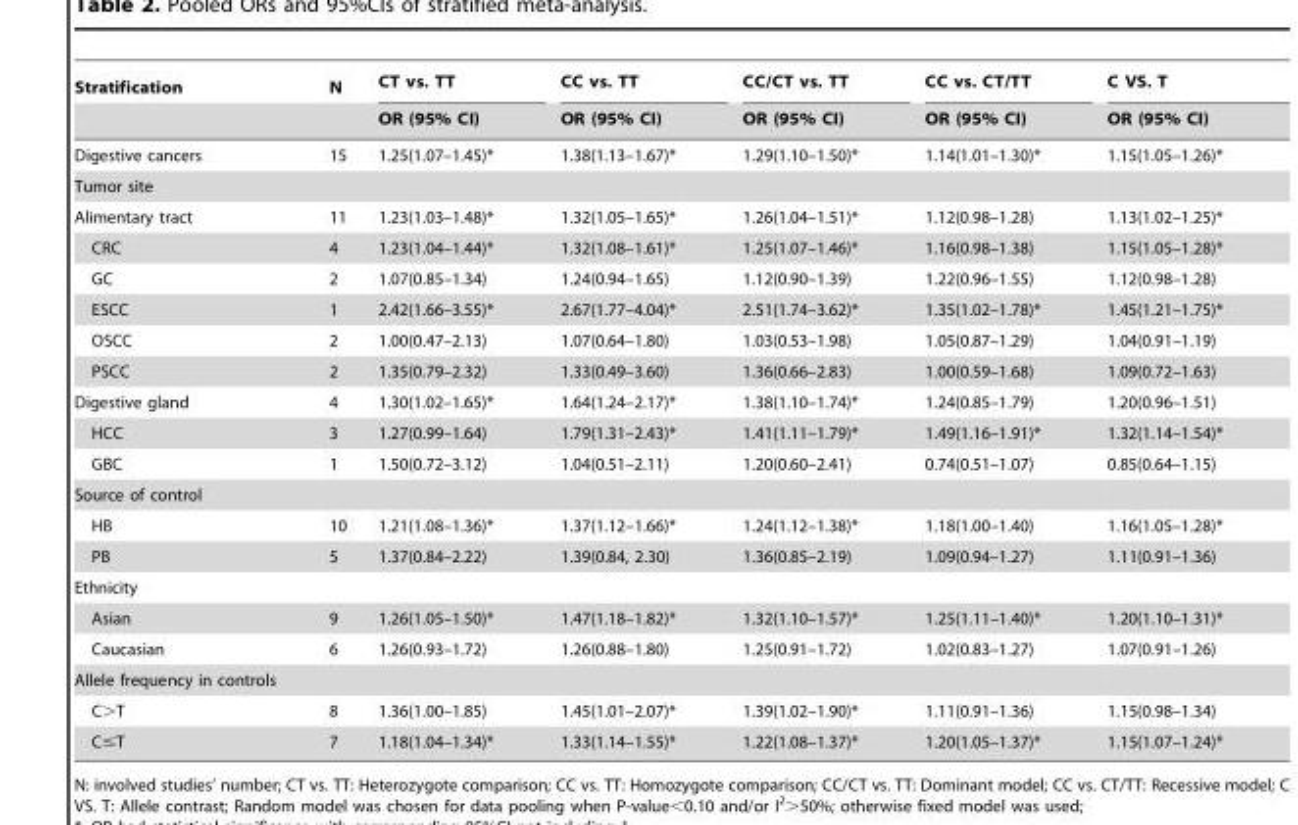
<table><thead><tr><td rowspan="2">Stratification</td><td rowspan="2">N</td><td rowspan="2">CT vs. TT OR (95% CI)</td><td rowspan="2">CC vs. TT OR (95% CI)</td><td rowspan="2">CC/CT vs. TT OR (95% CI)</td><td rowspan="2">CC vs. CT/TT OR (95% CI)</td><td rowspan="2">C VS. T OR (95% CI)</td></tr><tr></tr></thead><tbody><tr><td>Digestive cancers</td><td>15</td><td>1.25(1.07–1.45)*</td><td>1.38(1.13–1.67)*</td><td>1.29(1.10–1.50)*</td><td>1.14(1.01–1.30)*</td><td>1.15(1.05–1.26)*</td></tr><tr><td colspan="7">Tumor site</td></tr><tr><td>Alimentary tract</td><td>11</td><td>1.23(1.03–1.48)*</td><td>1.32(1.05–1.65)*</td><td>1.26(1.04–1.51)*</td><td>1.12(0.98–1.28)</td><td>1.13(1.02–1.25)*</td></tr><tr><td>CRC</td><td>4</td><td>1.23(1.04–1.44)*</td><td>1.32(1.08–1.61)*</td><td>1.25(1.07–1.46)*</td><td>1.16(0.98–1.38)</td><td>1.15(1.05–1.28)*</td></tr><tr><td>GC</td><td>2</td><td>1.07(0.85–1.34)</td><td>1.24(0.94–1.65)</td><td>1.12(0.90–1.39)</td><td>1.22(0.96–1.55)</td><td>1.12(0.98–1.28)</td></tr><tr><td>ESCC</td><td>1</td><td>2.42(1.66–3.55)*</td><td>2.67(1.77–4.04)*</td><td>2.51(1.74–3.62)*</td><td>1.35(1.02–1.78)*</td><td>1.45(1.21–1.75)*</td></tr><tr><td>OSCC</td><td>2</td><td>1.00(0.47–2.13)</td><td>1.07(0.64–1.80)</td><td>1.03(0.53–1.98)</td><td>1.05(0.87–1.29)</td><td>1.04(0.91–1.19)</td></tr><tr><td>PSCC</td><td>2</td><td>1.35(0.79–2.32)</td><td>1.33(0.49–3.60)</td><td>1.36(0.66–2.83)</td><td>1.00(0.59–1.68)</td><td>1.09(0.72–1.63)</td></tr><tr><td>Digestive gland</td><td>4</td><td>1.30(1.02–1.65)*</td><td>1.64(1.24–2.17)*</td><td>1.38(1.10–1.74)*</td><td>1.24(0.85–1.79)</td><td>1.20(0.96–1.51)</td></tr><tr><td>HCC</td><td>3</td><td>1.27(0.99–1.64)</td><td>1.79(1.31–2.43)*</td><td>1.41(1.11–1.79)*</td><td>1.49(1.16–1.91)*</td><td>1.32(1.14–1.54)*</td></tr><tr><td>GBC</td><td>1</td><td>1.50(0.72–3.12)</td><td>1.04(0.51–2.11)</td><td>1.20(0.60–2.41)</td><td>0.74(0.51–1.07)</td><td>0.85(0.64–1.15)</td></tr><tr><td colspan="7">Source of control</td></tr><tr><td>HB</td><td>10</td><td>1.21(1.08–1.36)*</td><td>1.37(1.12–1.66)*</td><td>1.24(1.12–1.38)*</td><td>1.18(1.00–1.40)</td><td>1.16(1.05–1.28)*</td></tr><tr><td>PB</td><td>5</td><td>1.37(0.84–2.22)</td><td>1.39(0.84, 2.30)</td><td>1.36(0.85–2.19)</td><td>1.09(0.94–1.27)</td><td>1.11(0.91–1.36)</td></tr><tr><td colspan="7">Ethnicity</td></tr><tr><td>Asian</td><td>9</td><td>1.26(1.05–1.50)*</td><td>1.47(1.18–1.82)*</td><td>1.32(1.10–1.57)*</td><td>1.25(1.11–1.40)*</td><td>1.20(1.10–1.31)*</td></tr><tr><td>Caucasian</td><td>6</td><td>1.26(0.93–1.72)</td><td>1.26(0.88–1.80)</td><td>1.25(0.91–1.72)</td><td>1.02(0.83–1.27)</td><td>1.07(0.91–1.26)</td></tr><tr><td colspan="7">Allele frequency in controls</td></tr><tr><td>C&gt;T</td><td>8</td><td>1.36(1.00–1.85)</td><td>1.45(1.01–2.07)*</td><td>1.39(1.02–1.90)*</td><td>1.11(0.91–1.36)</td><td>1.15(0.98–1.34)</td></tr><tr><td>C≤T</td><td>7</td><td>1.18(1.04–1.34)*</td><td>1.33(1.14–1.55)*</td><td>1.22(1.08–1.37)*</td><td>1.20(1.05–1.37)*</td><td>1.15(1.07–1.24)*</td></tr></tbody></table>